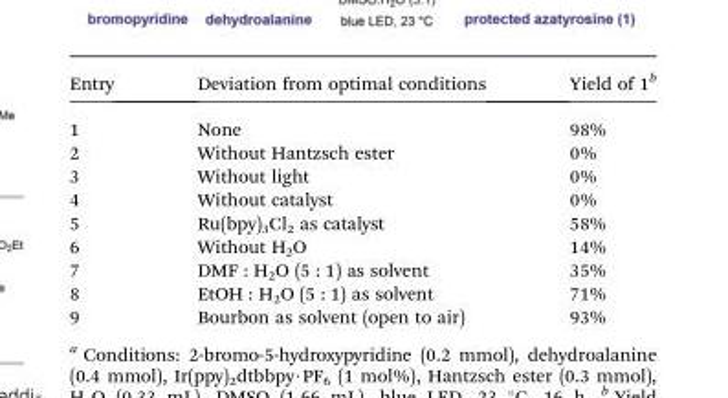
<table><thead><tr><td>Entry</td><td>Deviation from optimal conditions</td><td>Yield of 1<sup>b</sup></td></tr></thead><tbody><tr><td>1</td><td>None</td><td>98%</td></tr><tr><td>2</td><td>Without Hantzsch ester</td><td>0%</td></tr><tr><td>3</td><td>Without light</td><td>0%</td></tr><tr><td>4</td><td>Without catalyst</td><td>0%</td></tr><tr><td>5</td><td>Ru(bpy)<sub>3</sub>Cl<sub>2</sub> as catalyst</td><td>58%</td></tr><tr><td>6</td><td>Without H<sub>2</sub>O</td><td>14%</td></tr><tr><td>7</td><td>DMF : H<sub>2</sub>O (5 : 1) as solvent</td><td>35%</td></tr><tr><td>8</td><td>EtOH : H<sub>2</sub>O (5 : 1) as solvent</td><td>71%</td></tr><tr><td>9</td><td>Bourbon as solvent (open to air)</td><td>93%</td></tr></tbody></table>